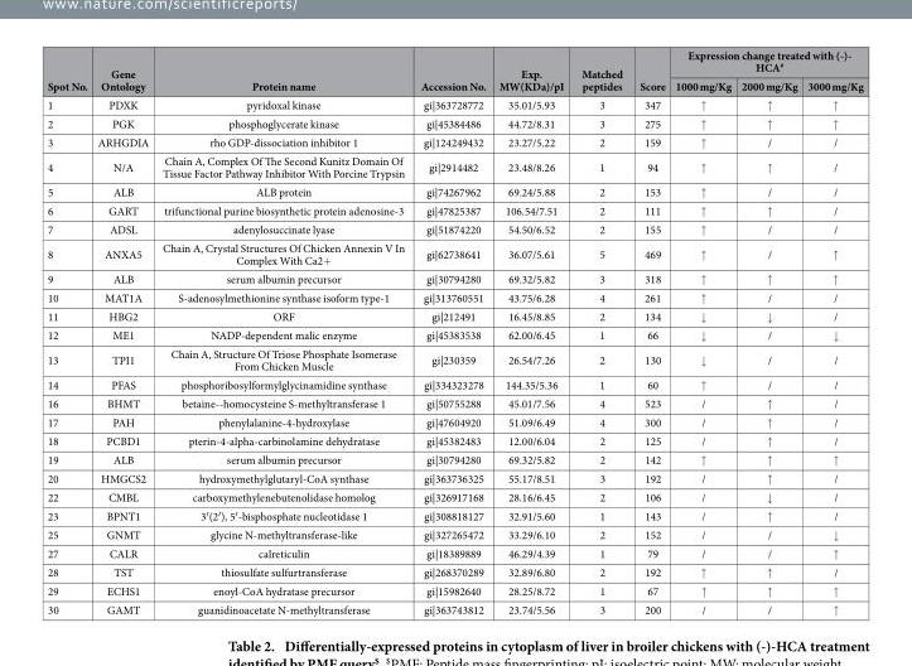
<table><thead><tr><td rowspan="2">Spot No.</td><td rowspan="2">Gene Ontology</td><td rowspan="2">Protein name</td><td rowspan="2">Accession No.</td><td rowspan="2">Exp. MW(KDa)/pI</td><td rowspan="2">Matched peptides</td><td rowspan="2">Score</td><td colspan="3">Expression change treated with (-)- HCA#</td></tr><tr><td>1000 mg/Kg</td><td>2000 mg/Kg</td><td>3000 mg/Kg</td></tr></thead><tbody><tr><td>1</td><td>PDXK</td><td>pyridoxal kinase</td><td>gi|363728772</td><td>35.01/5.93</td><td>3</td><td>347</td><td>↑</td><td>↑</td><td>↑</td></tr><tr><td>2</td><td>PGK</td><td>phosphoglycerate kinase</td><td>gi|45384486</td><td>44.72/8.31</td><td>3</td><td>275</td><td>↑</td><td>↑</td><td>↑</td></tr><tr><td>3</td><td>ARHGDIA</td><td>rho GDP-dissociation inhibitor 1</td><td>gi|124249432</td><td>23.27/5.22</td><td>2</td><td>159</td><td>↑</td><td>/</td><td>/</td></tr><tr><td>4</td><td>N/A</td><td>Chain A, Complex Of The Second Kunitz Domain Of Tissue Factor Pathway Inhibitor With Porcine Trypsin</td><td>gi|2914482</td><td>23.48/8.26</td><td>1</td><td>94</td><td>↑</td><td>↑</td><td>/</td></tr><tr><td>5</td><td>ALB</td><td>ALB protein</td><td>gi|74267962</td><td>69.24/5.88</td><td>2</td><td>153</td><td>↑</td><td>/</td><td>/</td></tr><tr><td>6</td><td>GART</td><td>trifunctional purine biosynthetic protein adenosine-3</td><td>gi|47825387</td><td>106.54/7.51</td><td>2</td><td>111</td><td>↑</td><td>↑</td><td>/</td></tr><tr><td>7</td><td>ADSL</td><td>adenylosuccinate lyase</td><td>gi|51874220</td><td>54.50/6.52</td><td>2</td><td>155</td><td>↑</td><td>/</td><td>/</td></tr><tr><td>8</td><td>ANXA5</td><td>Chain A, Crystal Structures Of Chicken Annexin V In Complex With Ca2+</td><td>gi|62738641</td><td>36.07/5.61</td><td>5</td><td>469</td><td>↑</td><td>/</td><td>↑</td></tr><tr><td>9</td><td>ALB</td><td>serum albumin precursor</td><td>gi|30794280</td><td>69.32/5.82</td><td>3</td><td>318</td><td>↑</td><td>↑</td><td>↑</td></tr><tr><td>10</td><td>MAT1A</td><td>S-adenosylmethionine synthase isoform type-1</td><td>gi|313760551</td><td>43.75/6.28</td><td>4</td><td>261</td><td>↑</td><td>/</td><td>/</td></tr><tr><td>11</td><td>HBG2</td><td>ORF</td><td>gi|212491</td><td>16.45/8.85</td><td>2</td><td>134</td><td>↓</td><td>↓</td><td>/</td></tr><tr><td>12</td><td>ME1</td><td>NADP-dependent malic enzyme</td><td>gi|45383538</td><td>62.00/6.45</td><td>1</td><td>66</td><td>↓</td><td>/</td><td>↓</td></tr><tr><td>13</td><td>TPI1</td><td>Chain A, Structure Of Triose Phosphate Isomerase From Chicken Muscle</td><td>gi|230359</td><td>26.54/7.26</td><td>2</td><td>130</td><td>↓</td><td>/</td><td>/</td></tr><tr><td>14</td><td>PFAS</td><td>phosphoribosylformylglycinamidine synthase</td><td>gi|334323278</td><td>144.35/5.36</td><td>1</td><td>60</td><td>↑</td><td>/</td><td>/</td></tr><tr><td>16</td><td>BHMT</td><td>betaine--homocysteine S-methyltransferase 1</td><td>gi|50755288</td><td>45.01/7.56</td><td>4</td><td>523</td><td>/</td><td>↑</td><td>/</td></tr><tr><td>17</td><td>PAH</td><td>phenylalanine-4-hydroxylase</td><td>gi|47604920</td><td>51.09/6.49</td><td>4</td><td>300</td><td>/</td><td>↑</td><td>/</td></tr><tr><td>18</td><td>PCBD1</td><td>pterin-4-alpha-carbinolamine dehydratase</td><td>gi|45382483</td><td>12.00/6.04</td><td>2</td><td>125</td><td>/</td><td>↑</td><td>/</td></tr><tr><td>19</td><td>ALB</td><td>serum albumin precursor</td><td>gi|30794280</td><td>69.32/5.82</td><td>2</td><td>142</td><td>↑</td><td>↑</td><td>↑</td></tr><tr><td>20</td><td>HMGCS2</td><td>hydroxymethylglutaryl-CoA synthase</td><td>gi|363736325</td><td>55.17/8.51</td><td>3</td><td>192</td><td>/</td><td>↑</td><td>/</td></tr><tr><td>22</td><td>CMBL</td><td>carboxymethylenebutenolidase homolog</td><td>gi|326917168</td><td>28.16/6.45</td><td>2</td><td>106</td><td>/</td><td>↓</td><td>/</td></tr><tr><td>23</td><td>BPNT1</td><td>3′ (2′ ), 5′ -bisphosphate nucleotidase 1</td><td>gi|308818127</td><td>32.91/5.60</td><td>1</td><td>143</td><td>/</td><td>↑</td><td>/</td></tr><tr><td>25</td><td>GNMT</td><td>glycine N-methyltransferase-like</td><td>gi|327265472</td><td>33.29/6.10</td><td>2</td><td>152</td><td>/</td><td>/</td><td>↓</td></tr><tr><td>27</td><td>CALR</td><td>calreticulin</td><td>gi|18389889</td><td>46.29/4.39</td><td>1</td><td>79</td><td>/</td><td>/</td><td>↑</td></tr><tr><td>28</td><td>TST</td><td>thiosulfate sulfurtransferase</td><td>gi|268370289</td><td>32.89/6.80</td><td>2</td><td>192</td><td>↑</td><td>↑</td><td>/</td></tr><tr><td>29</td><td>ECHS1</td><td>enoyl-CoA hydratase precursor</td><td>gi|15982640</td><td>28.25/8.72</td><td>1</td><td>67</td><td>↑</td><td>↑</td><td>↑</td></tr><tr><td>30</td><td>GAMT</td><td>guanidinoacetate N-methyltransferase</td><td>gi|363743812</td><td>23.74/5.56</td><td>3</td><td>200</td><td>/</td><td>/</td><td>↑</td></tr></tbody></table>